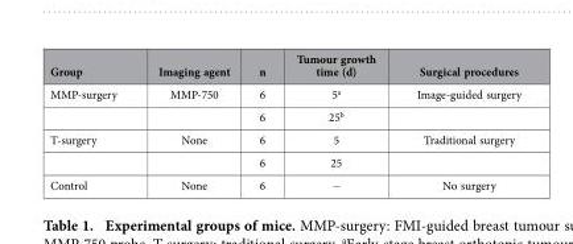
<table><thead><tr><td>Group</td><td>Imaging agent</td><td>n</td><td>Tumour growth time (d)</td><td>Surgical procedures</td></tr></thead><tbody><tr><td rowspan="2">MMP-surgery</td><td>MMP-750</td><td>6</td><td>5<sup>a</sup></td><td>Image-guided surgery</td></tr><tr><td></td><td>6</td><td>25<sup>b</sup></td><td></td></tr><tr><td rowspan="2">T-surgery</td><td>None</td><td>6</td><td>5</td><td>Traditional surgery</td></tr><tr><td></td><td>6</td><td>25</td><td></td></tr><tr><td>Control</td><td>None</td><td>6</td><td>−</td><td>No surgery</td></tr></tbody></table>